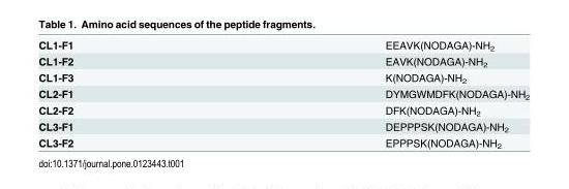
<table><tbody><tr><td>CL1-F1</td><td>EEAVK(NODAGA)-NH<sub>2</sub></td></tr><tr><td>CL1-F2</td><td>EAVK(NODAGA)-NH<sub>2</sub></td></tr><tr><td>CL1-F3</td><td>K(NODAGA)-NH<sub>2</sub></td></tr><tr><td>CL2-F1</td><td>DYMGWMDFK(NODAGA)-NH<sub>2</sub></td></tr><tr><td>CL2-F2</td><td>DFK(NODAGA)-NH<sub>2</sub></td></tr><tr><td>CL3-F1</td><td>DEPPPSK(NODAGA)-NH<sub>2</sub></td></tr><tr><td>CL3-F2</td><td>EPPPSK(NODAGA)-NH<sub>2</sub></td></tr></tbody></table>